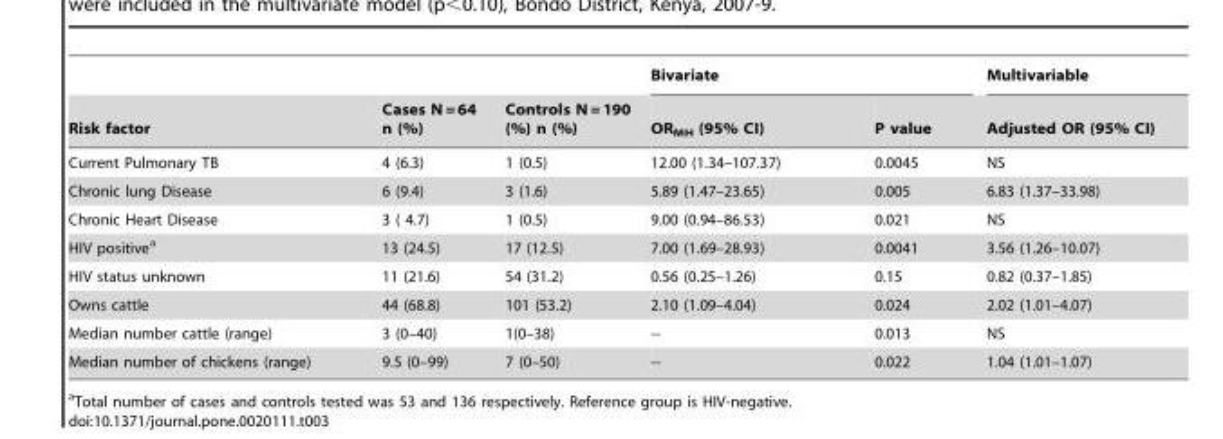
<table><thead><tr><td rowspan="2">Risk factor</td><td rowspan="2">Cases N = 64 n (%)</td><td rowspan="2">Controls N = 190 (%) n (%)</td><td colspan="2">Bivariate</td><td rowspan="2">Multivariable Adjusted OR (95% CI)</td></tr><tr><td>OR<sub>MH</sub> (95% CI)</td><td>P value</td></tr></thead><tbody><tr><td>Current Pulmonary TB</td><td>4 (6.3)</td><td>1 (0.5)</td><td>12.00 (1.34–107.37)</td><td>0.0045</td><td>NS</td></tr><tr><td>Chronic lung Disease</td><td>6 (9.4)</td><td>3 (1.6)</td><td>5.89 (1.47–23.65)</td><td>0.005</td><td>6.83 (1.37–33.98)</td></tr><tr><td>Chronic Heart Disease</td><td>3 ( 4.7)</td><td>1 (0.5)</td><td>9.00 (0.94–86.53)</td><td>0.021</td><td>NS</td></tr><tr><td>HIV positive<sup>a</sup></td><td>13 (24.5)</td><td>17 (12.5)</td><td>7.00 (1.69–28.93)</td><td>0.0041</td><td>3.56 (1.26–10.07)</td></tr><tr><td>HIV status unknown</td><td>11 (21.6)</td><td>54 (31.2)</td><td>0.56 (0.25–1.26)</td><td>0.15</td><td>0.82 (0.37–1.85)</td></tr><tr><td>Owns cattle</td><td>44 (68.8)</td><td>101 (53.2)</td><td>2.10 (1.09–4.04)</td><td>0.024</td><td>2.02 (1.01–4.07)</td></tr><tr><td>Median number cattle (range)</td><td>3 (0–40)</td><td>1(0–38)</td><td>--</td><td>0.013</td><td>NS</td></tr><tr><td>Median number of chickens (range)</td><td>9.5 (0–99)</td><td>7 (0–50)</td><td>--</td><td>0.022</td><td>1.04 (1.01–1.07)</td></tr></tbody></table>